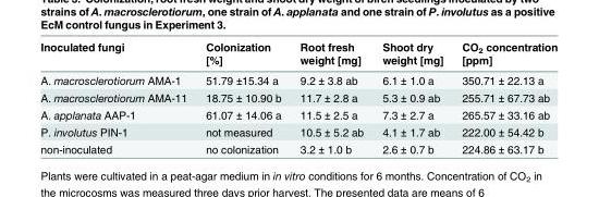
<table><thead><tr><td>Inoculated fungi</td><td>Colonization [%]</td><td>Root fresh weight [mg]</td><td>Shoot dry weight [mg]</td><td>CO<sub>2</sub> concentration [ppm]</td></tr></thead><tbody><tr><td>A. macrosclerotiorum AMA-1</td><td>51.79 ±15.34 a</td><td>9.2 ± 3.8 ab</td><td>6.1 ± 1.0 a</td><td>350.71 ± 22.13 a</td></tr><tr><td>A. macrosclerotiorum AMA-11</td><td>18.75 ± 10.90 b</td><td>11.7 ± 2.8 a</td><td>5.3 ± 0.9 ab</td><td>255.71 ± 67.73 ab</td></tr><tr><td>A. applanata AAP-1</td><td>61.07 ± 14.06 a</td><td>11.5 ± 2.5 a</td><td>7.3 ± 2.7 a</td><td>265.57 ± 33.16 ab</td></tr><tr><td>P. involutus PIN-1</td><td>not measured</td><td>10.5 ± 5.2 ab</td><td>4.1 ± 1.7 ab</td><td>222.00 ± 54.42 b</td></tr><tr><td>non-inoculated</td><td>no colonization</td><td>3.2 ± 1.0 b</td><td>2.6 ± 0.7 b</td><td>224.86 ± 63.17 b</td></tr></tbody></table>